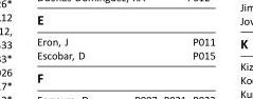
<table><tbody><tr><td>Eron, J</td><td>P011</td></tr><tr><td>Escobar, D</td><td>P015</td></tr></tbody></table>